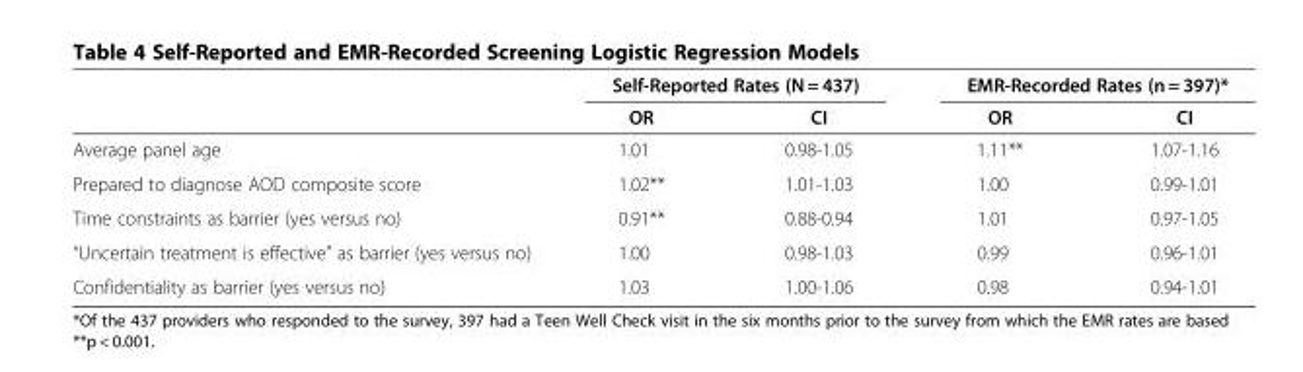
<table><thead><tr><td rowspan="2"></td><td colspan="2">Self-Reported Rates (N = 437)</td><td colspan="2">EMR-Recorded Rates (n = 397)*</td></tr><tr><td>OR</td><td>CI</td><td>OR</td><td>CI</td></tr></thead><tbody><tr><td>Average panel age</td><td>1.01</td><td>0.98-1.05</td><td>1.11**</td><td>1.07-1.16</td></tr><tr><td>Prepared to diagnose AOD composite score</td><td>1.02**</td><td>1.01-1.03</td><td>1.00</td><td>0.99-1.01</td></tr><tr><td>Time constraints as barrier (yes versus no)</td><td>0.91**</td><td>0.88-0.94</td><td>1.01</td><td>0.97-1.05</td></tr><tr><td>“Uncertain treatment is effective” as barrier (yes versus no)</td><td>1.00</td><td>0.98-1.03</td><td>0.99</td><td>0.96-1.01</td></tr><tr><td>Confidentiality as barrier (yes versus no)</td><td>1.03</td><td>1.00-1.06</td><td>0.98</td><td>0.94-1.01</td></tr></tbody></table>